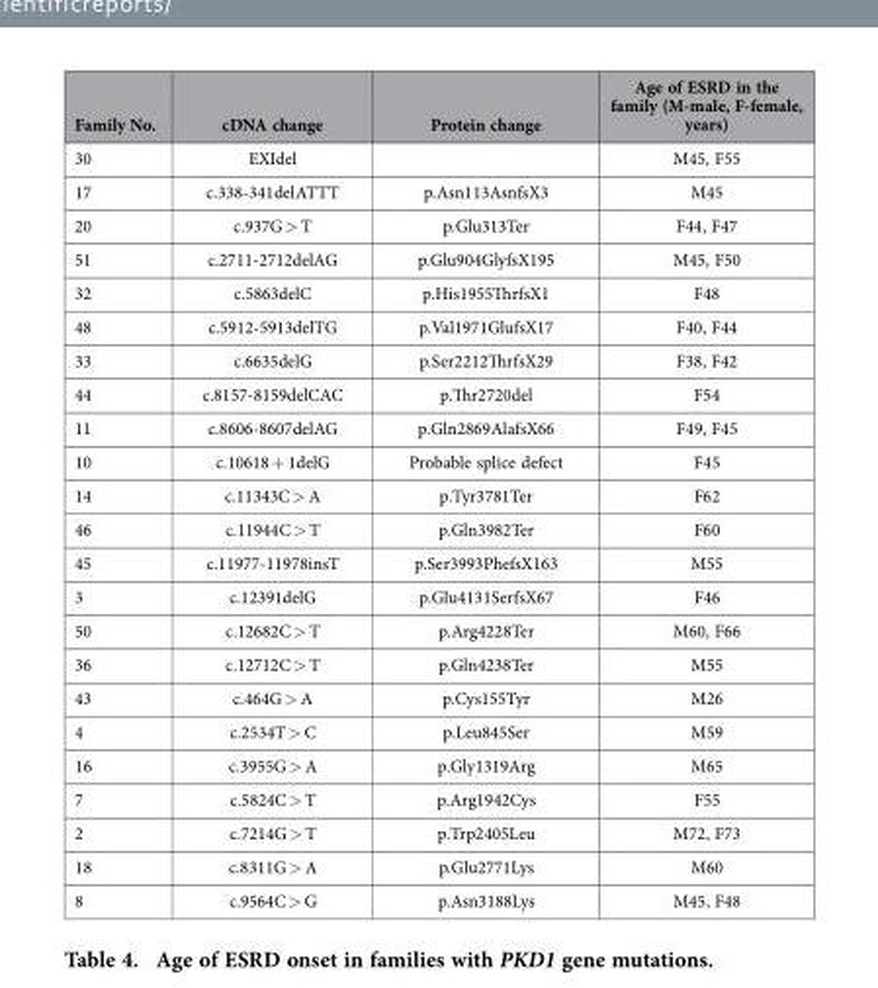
<table><thead><tr><td>Family No.</td><td>cDNA change</td><td>Protein change</td><td>Age of ESRD in the family (M-male, F-female, years)</td></tr></thead><tbody><tr><td>30</td><td>EXIdel</td><td></td><td>M45, F55</td></tr><tr><td>17</td><td>c.338-341delATTT</td><td>p.Asn113AsnfsX3</td><td>M45</td></tr><tr><td>20</td><td>c.937G &gt; T</td><td>p.Glu313Ter</td><td>F44, F47</td></tr><tr><td>51</td><td>c.2711-2712delAG</td><td>p.Glu904GlyfsX195</td><td>M45, F50</td></tr><tr><td>32</td><td>c.5863delC</td><td>p.His1955ThrfsX1</td><td>F48</td></tr><tr><td>48</td><td>c.5912-5913delTG</td><td>p.Val1971GlufsX17</td><td>F40, F44</td></tr><tr><td>33</td><td>c.6635delG</td><td>p.Ser2212ThrfsX29</td><td>F38, F42</td></tr><tr><td>44</td><td>c.8157-8159delCAC</td><td>p.Thr2720del</td><td>F54</td></tr><tr><td>11</td><td>c.8606-8607delAG</td><td>p.Gln2869AlafsX66</td><td>F49, F45</td></tr><tr><td>10</td><td>c.10618 + 1delG</td><td>Probable splice defect</td><td>F45</td></tr><tr><td>14</td><td>c.11343C &gt; A</td><td>p.Tyr3781Ter</td><td>F62</td></tr><tr><td>46</td><td>c.11944C &gt; T</td><td>p.Gln3982Ter</td><td>F60</td></tr><tr><td>45</td><td>c.11977-11978insT</td><td>p.Ser3993PhefsX163</td><td>M55</td></tr><tr><td>3</td><td>c.12391delG</td><td>p.Glu4131SerfsX67</td><td>F46</td></tr><tr><td>50</td><td>c.12682C &gt; T</td><td>p.Arg4228Ter</td><td>M60, F66</td></tr><tr><td>36</td><td>c.12712C &gt; T</td><td>p.Gln4238Ter</td><td>M55</td></tr><tr><td>43</td><td>c.464G &gt; A</td><td>p.Cys155Tyr</td><td>M26</td></tr><tr><td>4</td><td>c.2534T &gt; C</td><td>p.Leu845Ser</td><td>M59</td></tr><tr><td>16</td><td>c.3955G &gt; A</td><td>p.Gly1319Arg</td><td>M65</td></tr><tr><td>7</td><td>c.5824C &gt; T</td><td>p.Arg1942Cys</td><td>F55</td></tr><tr><td>2</td><td>c.7214G &gt; T</td><td>p.Trp2405Leu</td><td>M72, F73</td></tr><tr><td>18</td><td>c.8311G &gt; A</td><td>p.Glu2771Lys</td><td>M60</td></tr><tr><td>8</td><td>c.9564C &gt; G</td><td>p.Asn3188Lys</td><td>M45, F48</td></tr></tbody></table>